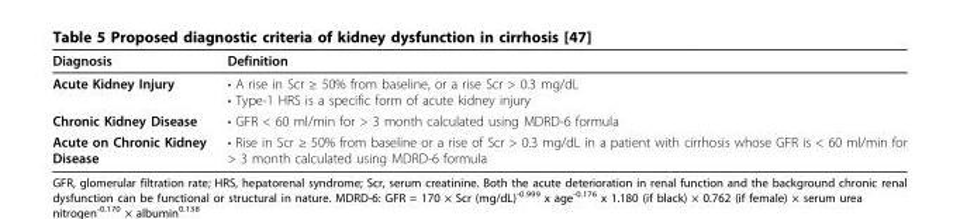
<table><thead><tr><td>Diagnosis</td><td>Definition</td></tr></thead><tbody><tr><td>Acute Kidney Injury</td><td>• A rise in Scr ≥ 50% from baseline, or a rise Scr &gt; 0.3 mg/dL • Type-1 HRS is a specific form of acute kidney injury</td></tr><tr><td>Chronic Kidney Disease</td><td>• GFR &lt; 60 ml/min for &gt; 3 month calculated using MDRD-6 formula</td></tr><tr><td>Acute on Chronic Kidney Disease</td><td>• Rise in Scr ≥ 50% from baseline or a rise of Scr &gt; 0.3 mg/dL in a patient with cirrhosis whose GFR is &lt; 60 ml/min for &gt; 3 month calculated using MDRD-6 formula</td></tr></tbody></table>